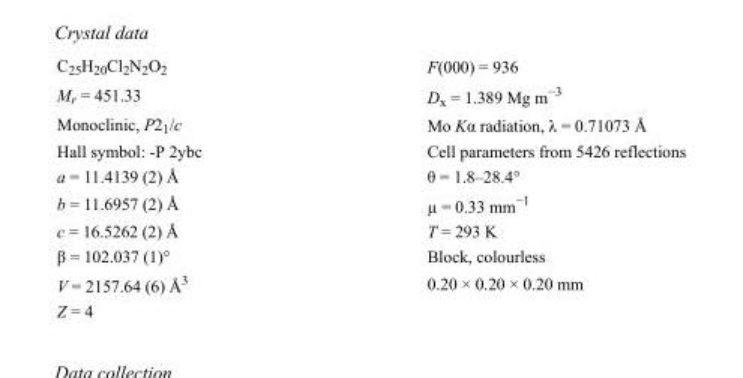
<table><tbody><tr><td>C<sub>25</sub>H<sub>20</sub>Cl<sub>2</sub>N<sub>2</sub>O<sub>2</sub></td><td>F(000) = 936</td></tr><tr><td>M<sub>r</sub> = 451.33</td><td>D<sub>x</sub> = 1.389 Mg m<sup>−3</sup></td></tr><tr><td>Monoclinic, P2<sub>1</sub>/c</td><td>Mo Kα radiation, λ = 0.71073 Å</td></tr><tr><td>Hall symbol: -P 2ybc</td><td>Cell parameters from 5426 reflections</td></tr><tr><td>a = 11.4139 (2) Å</td><td>θ = 1.8–28.4°</td></tr><tr><td>b = 11.6957 (2) Å</td><td>µ = 0.33 mm<sup>−1</sup></td></tr><tr><td>c = 16.5262 (2) Å</td><td>T = 293 K</td></tr><tr><td>β = 102.037 (1)°</td><td>Block, colourless</td></tr><tr><td>V = 2157.64 (6) Å<sup>3</sup></td><td>0.20 × 0.20 × 0.20 mm</td></tr><tr><td>Z = 4</td><td></td></tr></tbody></table>